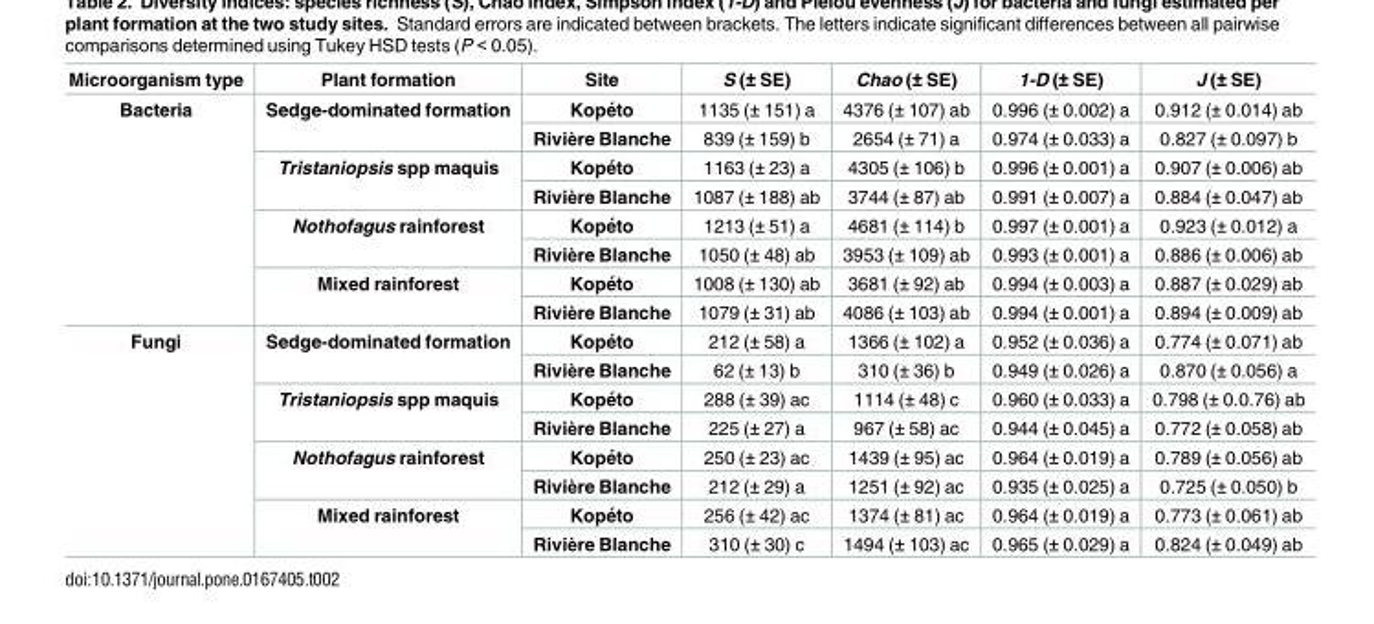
<table><thead><tr><td>Microorganism type</td><td>Plant formation</td><td>Site</td><td>S (± SE)</td><td>Chao (± SE)</td><td>1-D (± SE)</td><td>J (± SE)</td></tr></thead><tbody><tr><td rowspan="8">Bacteria</td><td rowspan="2">Sedge-dominated formation</td><td>Kope´to</td><td>1135 (± 151) a</td><td>4376 (± 107) ab</td><td>0.996 (± 0.002) a</td><td>0.912 (± 0.014) ab</td></tr><tr><td>Rivière Blanche</td><td>839 (± 159) b</td><td>2654 (± 71) a</td><td>0.974 (± 0.033) a</td><td>0.827 (± 0.097) b</td></tr><tr><td rowspan="2">Tristaniopsis spp maquis</td><td>Kope´to</td><td>1163 (± 23) a</td><td>4305 (± 106) b</td><td>0.996 (± 0.001) a</td><td>0.907 (± 0.006) ab</td></tr><tr><td>Rivière Blanche</td><td>1087 (± 188) ab</td><td>3744 (± 87) ab</td><td>0.991 (± 0.007) a</td><td>0.884 (± 0.047) ab</td></tr><tr><td rowspan="2">Nothofagus rainforest</td><td>Kope´to</td><td>1213 (± 51) a</td><td>4681 (± 114) b</td><td>0.997 (± 0.001) a</td><td>0.923 (± 0.012) a</td></tr><tr><td>Rivière Blanche</td><td>1050 (± 48) ab</td><td>3953 (± 109) ab</td><td>0.993 (± 0.001) a</td><td>0.886 (± 0.006) ab</td></tr><tr><td rowspan="2">Mixed rainforest</td><td>Kope´to</td><td>1008 (± 130) ab</td><td>3681 (± 92) ab</td><td>0.994 (± 0.003) a</td><td>0.887 (± 0.029) ab</td></tr><tr><td>Rivière Blanche</td><td>1079 (± 31) ab</td><td>4086 (± 103) ab</td><td>0.994 (± 0.001) a</td><td>0.894 (± 0.009) ab</td></tr><tr><td rowspan="8">Fungi</td><td rowspan="2">Sedge-dominated formation</td><td>Kope´to</td><td>212 (± 58) a</td><td>1366 (± 102) a</td><td>0.952 (± 0.036) a</td><td>0.774 (± 0.071) ab</td></tr><tr><td>Rivière Blanche</td><td>62 (± 13) b</td><td>310 (± 36) b</td><td>0.949 (± 0.026) a</td><td>0.870 (± 0.056) a</td></tr><tr><td rowspan="2">Tristaniopsis spp maquis</td><td>Kope´to</td><td>288 (± 39) ac</td><td>1114 (± 48) c</td><td>0.960 (± 0.033) a</td><td>0.798 (± 0.0.76) ab</td></tr><tr><td>Rivière Blanche</td><td>225 (± 27) a</td><td>967 (± 58) ac</td><td>0.944 (± 0.045) a</td><td>0.772 (± 0.058) ab</td></tr><tr><td rowspan="2">Nothofagus rainforest</td><td>Kope´to</td><td>250 (± 23) ac</td><td>1439 (± 95) ac</td><td>0.964 (± 0.019) a</td><td>0.789 (± 0.056) ab</td></tr><tr><td>Rivière Blanche</td><td>212 (± 29) a</td><td>1251 (± 92) ac</td><td>0.935 (± 0.025) a</td><td>0.725 (± 0.050) b</td></tr><tr><td rowspan="2">Mixed rainforest</td><td>Kope´to</td><td>256 (± 42) ac</td><td>1374 (± 81) ac</td><td>0.964 (± 0.019) a</td><td>0.773 (± 0.061) ab</td></tr><tr><td>Rivière Blanche</td><td>310 (± 30) c</td><td>1494 (± 103) ac</td><td>0.965 (± 0.029) a</td><td>0.824 (± 0.049) ab</td></tr></tbody></table>